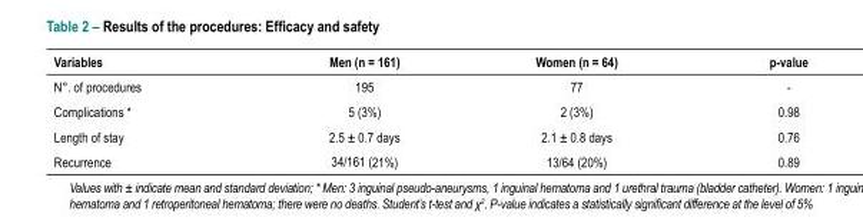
<table><thead><tr><td>Variables</td><td>Men (n = 161)</td><td>Women (n = 64)</td><td>p-value</td></tr></thead><tbody><tr><td>N°. of procedures</td><td>195</td><td>77</td><td>-</td></tr><tr><td>Complications *</td><td>5 (3%)</td><td>2 (3%)</td><td>0.98</td></tr><tr><td>Length of stay</td><td>2.5 ± 0.7 days</td><td>2.1 ± 0.8 days</td><td>0.76</td></tr><tr><td>Recurrence</td><td>34/161 (21%)</td><td>13/64 (20%)</td><td>0.89</td></tr></tbody></table>